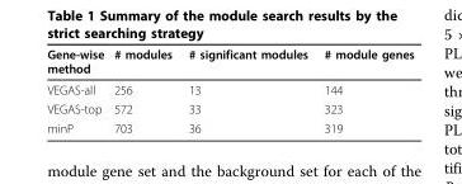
<table><thead><tr><td>Gene-wise method</td><td># modules</td><td># significant modules</td><td># module genes</td></tr></thead><tbody><tr><td>VEGAS-all</td><td>256</td><td>13</td><td>144</td></tr><tr><td>VEGAS-top</td><td>572</td><td>33</td><td>323</td></tr><tr><td>minP</td><td>703</td><td>36</td><td>319</td></tr></tbody></table>